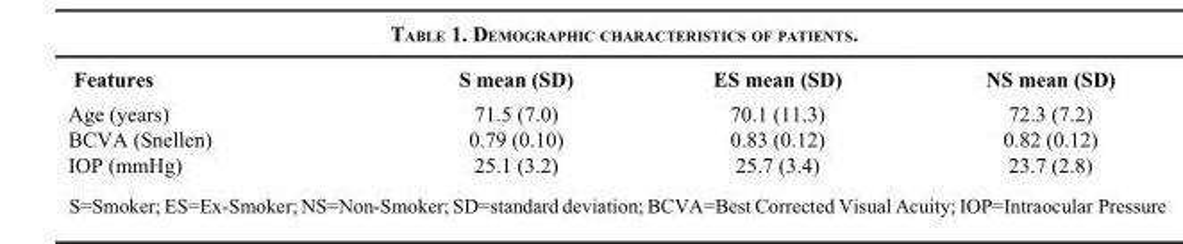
<table><thead><tr><td>Features</td><td>S mean (SD)</td><td>ES mean (SD)</td><td>NS mean (SD)</td></tr></thead><tbody><tr><td>Age (years)</td><td>71.5 (7.0)</td><td>70.1 (11.3)</td><td>72.3 (7.2)</td></tr><tr><td>BCVA (Snellen)</td><td>0.79 (0.10)</td><td>0.83 (0.12)</td><td>0.82 (0.12)</td></tr><tr><td>IOP (mmHg)</td><td>25.1 (3.2)</td><td>25.7 (3.4)</td><td>23.7 (2.8)</td></tr></tbody></table>